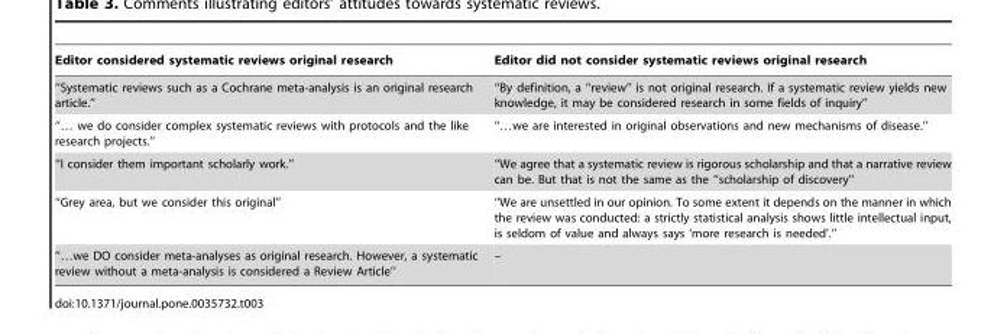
<table><thead><tr><td>Editor considered systematic reviews original research</td><td>Editor did not consider systematic reviews original research</td></tr></thead><tbody><tr><td>‘‘Systematic reviews such as a Cochrane meta-analysis is an original research article.’’</td><td>‘‘By definition, a ‘‘review’’ is not original research. If a systematic review yields new knowledge, it may be considered research in some fields of inquiry’’</td></tr><tr><td>‘‘… we do consider complex systematic reviews with protocols and the like research projects.’’</td><td>‘‘…we are interested in original observations and new mechanisms of disease.’’</td></tr><tr><td>‘‘I consider them important scholarly work.’’</td><td>‘‘We agree that a systematic review is rigorous scholarship and that a narrative review can be. But that is not the same as the ‘‘scholarship of discovery’’</td></tr><tr><td>‘‘Grey area, but we consider this original’’</td><td>‘‘We are unsettled in our opinion. To some extent it depends on the manner in which the review was conducted: a strictly statistical analysis shows little intellectual input, is seldom of value and always says ‘more research is needed’.’’</td></tr><tr><td>‘‘…we DO consider meta-analyses as original research. However, a systematic review without a meta-analysis is considered a Review Article’’</td><td>–</td></tr></tbody></table>